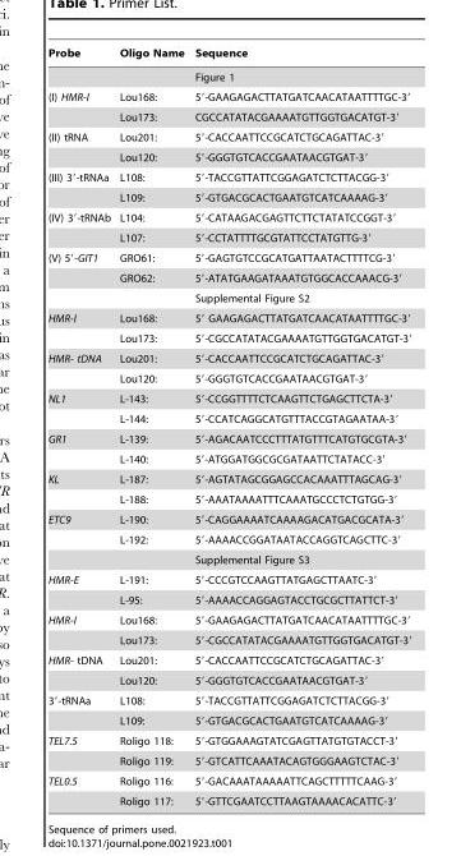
<table><thead><tr><td>Probe</td><td>Oligo Name</td><td>Sequence</td></tr></thead><tbody><tr><td></td><td></td><td>Figure 1</td></tr><tr><td rowspan="2">(I) HMR-I</td><td>Lou168:</td><td>5′-GAAGAGACTTATGATCAACATAATTTTGC-3′</td></tr><tr><td>Lou173:</td><td>CGCCATATACGAAAATGTTGGTGACATGT-3′</td></tr><tr><td rowspan="2">(II) tRNA</td><td>Lou201:</td><td>5′-CACCAATTCCGCATCTGCAGATTAC-3′</td></tr><tr><td>Lou120:</td><td>5′-GGGTGTCACCGAATAACGTGAT-3′</td></tr><tr><td rowspan="2">(III) 3′-tRNAa</td><td>L108:</td><td>5′-TACCGTTATTCGGAGATCTCTTACGG-3′</td></tr><tr><td>L109:</td><td>5′-GTGACGCACTGAATGTCATCAAAAG-3′</td></tr><tr><td rowspan="2">(IV) 3′-tRNAb</td><td>L104:</td><td>5′-CATAAGACGAGTTCTTCTATATCCGGT-3′</td></tr><tr><td>L107:</td><td>5′-CCTATTTTGCGTATTCCTATGTTG-3′</td></tr><tr><td rowspan="3">(V) 5′-GIT1</td><td>GRO61:</td><td>5′-GAGTGTCCGCATGATTAATACTTTTCG-3′</td></tr><tr><td>GRO62:</td><td>5′-ATATGAAGATAAATGTGGCACCAAACG-3′</td></tr><tr><td></td><td>Supplemental Figure S2</td></tr><tr><td rowspan="2">HMR-I</td><td>Lou168:</td><td>5′ GAAGAGACTTATGATCAACATAATTTTGC-3′</td></tr><tr><td>Lou173:</td><td>5′-CGCCATATACGAAAATGTTGGTGACATGT-3′</td></tr><tr><td rowspan="2">HMR- tDNA</td><td>Lou201:</td><td>5′-CACCAATTCCGCATCTGCAGATTAC-3′</td></tr><tr><td>Lou120:</td><td>5′-GGGTGTCACCGAATAACGTGAT-3′</td></tr><tr><td rowspan="2">NL1</td><td>L-143:</td><td>5′-CCGGTTTTCTCAAGTTCTGAGCTTCTA-3′</td></tr><tr><td>L-144:</td><td>5′-CCATCAGGCATGTTTACCGTAGAATAA-3′</td></tr><tr><td rowspan="2">GR1</td><td>L-139:</td><td>5′-AGACAATCCCTTTATGTTTCATGTGCGTA-3′</td></tr><tr><td>L-140:</td><td>5′-ATGGATGGCGCGATAATTCTATACC-3′</td></tr><tr><td rowspan="2">KL</td><td>L-187:</td><td>5′-AGTATAGCGGAGCCACAAATTTAGCAG-3′</td></tr><tr><td>L-188:</td><td>5′-AAATAAAATTTCAAATGCCCTCTGTGG-3′</td></tr><tr><td rowspan="3">ETC9</td><td>L-190:</td><td>5′-CAGGAAAATCAAAAGACATGACGCATA-3′</td></tr><tr><td>L-192:</td><td>5′-AAAACCGGATAATACCAGGTCAGCTTC-3′</td></tr><tr><td></td><td>Supplemental Figure S3</td></tr><tr><td rowspan="2">HMR-E</td><td>L-191:</td><td>5′-CCCGTCCAAGTTATGAGCTTAATC-3′</td></tr><tr><td>L-95:</td><td>5′-AAAACCAGGAGTACCTGCGCTTATTCT-3′</td></tr><tr><td rowspan="2">HMR-I</td><td>Lou168:</td><td>5′-GAAGAGACTTATGATCAACATAATTTTGC-3′</td></tr><tr><td>Lou173:</td><td>5′-CGCCATATACGAAAATGTTGGTGACATGT-3′</td></tr><tr><td rowspan="2">HMR- tDNA</td><td>Lou201:</td><td>5′-CACCAATTCCGCATCTGCAGATTAC-3′</td></tr><tr><td>Lou120:</td><td>5′-GGGTGTCACCGAATAACGTGAT-3′</td></tr><tr><td rowspan="2">3′-tRNAa</td><td>L108:</td><td>5′-TACCGTTATTCGGAGATCTCTTACGG-3′</td></tr><tr><td>L109:</td><td>5′-GTGACGCACTGAATGTCATCAAAAG-3′</td></tr><tr><td rowspan="2">TEL7.5</td><td>Roligo 118:</td><td>5′-GTGGAAAGTATCGAGTTATGTGTACCT-3′</td></tr><tr><td>Roligo 119:</td><td>5′-GTCATTCAAATACAGTGGGAAGTCTAC-3′</td></tr><tr><td rowspan="2">TEL0.5</td><td>Roligo 116:</td><td>5′-GACAAATAAAAATTCAGCTTTTTCAAG-3′</td></tr><tr><td>Roligo 117:</td><td>5′-GTTCGAATCCTTAAGTAAAACACATTC-3′</td></tr></tbody></table>